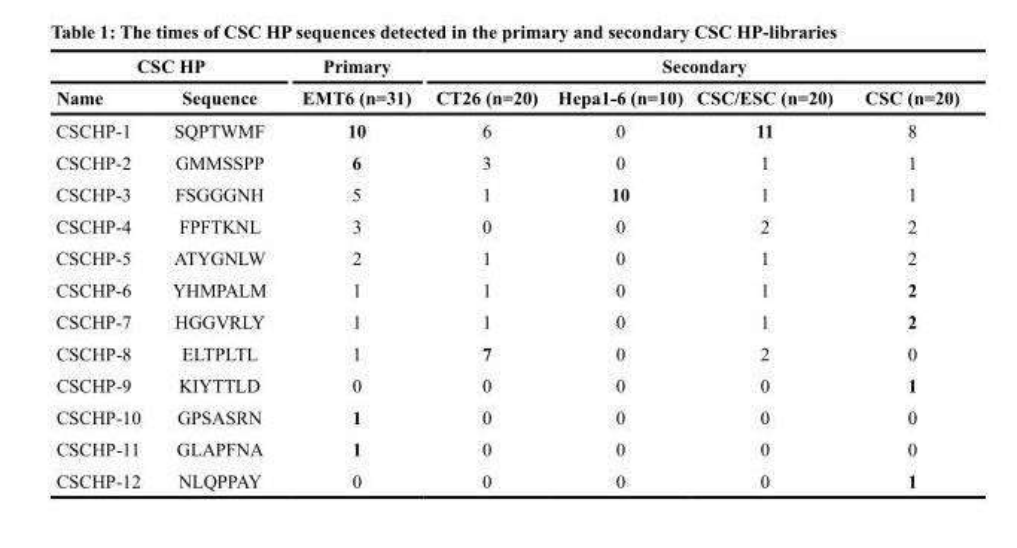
<table><thead><tr><td colspan="2">CSC HP</td><td rowspan="2">Primary EMT6 (n=31)</td><td colspan="4">Secondary</td></tr><tr><td>Name</td><td>Sequence</td><td>CT26 (n=20)</td><td>Hepa1-6 (n=10)</td><td>CSC/ESC (n=20)</td><td>CSC (n=20)</td></tr></thead><tbody><tr><td>CSCHP-1</td><td>SQPTWMF</td><td>10</td><td>6</td><td>0</td><td>11</td><td>8</td></tr><tr><td>CSCHP-2</td><td>GMMSSPP</td><td>6</td><td>3</td><td>0</td><td>1</td><td>1</td></tr><tr><td>CSCHP-3</td><td>FSGGGNH</td><td>5</td><td>1</td><td>10</td><td>1</td><td>1</td></tr><tr><td>CSCHP-4</td><td>FPFTKNL</td><td>3</td><td>0</td><td>0</td><td>2</td><td>2</td></tr><tr><td>CSCHP-5</td><td>ATYGNLW</td><td>2</td><td>1</td><td>0</td><td>1</td><td>2</td></tr><tr><td>CSCHP-6</td><td>YHMPALM</td><td>1</td><td>1</td><td>0</td><td>1</td><td>2</td></tr><tr><td>CSCHP-7</td><td>HGGVRLY</td><td>1</td><td>1</td><td>0</td><td>1</td><td>2</td></tr><tr><td>CSCHP-8</td><td>ELTPLTL</td><td>1</td><td>7</td><td>0</td><td>2</td><td>0</td></tr><tr><td>CSCHP-9</td><td>KIYTTLD</td><td>0</td><td>0</td><td>0</td><td>0</td><td>1</td></tr><tr><td>CSCHP-10</td><td>GPSASRN</td><td>1</td><td>0</td><td>0</td><td>0</td><td>0</td></tr><tr><td>CSCHP-11</td><td>GLAPFNA</td><td>1</td><td>0</td><td>0</td><td>0</td><td>0</td></tr><tr><td>CSCHP-12</td><td>NLQPPAY</td><td>0</td><td>0</td><td>0</td><td>0</td><td>1</td></tr></tbody></table>